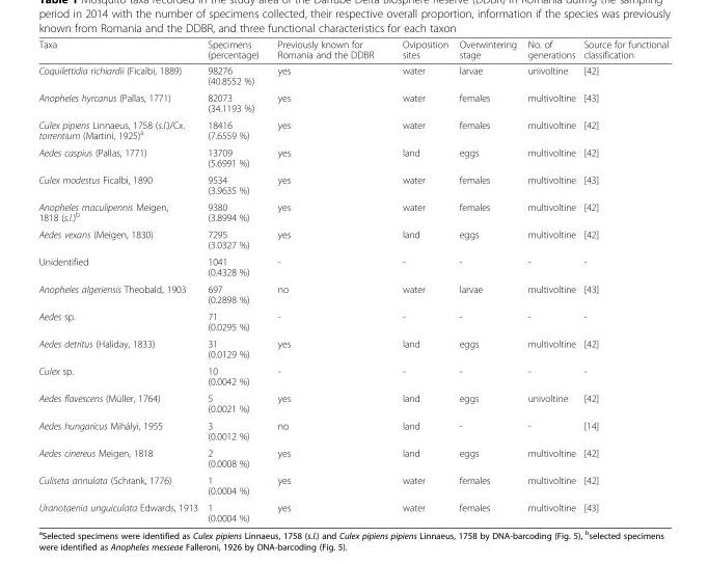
<table><thead><tr><td>Taxa</td><td>Specimens (percentage)</td><td>Previously known for Romania and the DDBR</td><td>Oviposition sites</td><td>Overwintering stage</td><td>No. of generations</td><td>Source for functional classification</td></tr></thead><tbody><tr><td>Coquilettidia richiardii (Ficalbi, 1889)</td><td>98276 (40.8552 %)</td><td>yes</td><td>water</td><td>larvae</td><td>univoltine</td><td>[42]</td></tr><tr><td>Anopheles hyrcanus (Pallas, 1771)</td><td>82073 (34.1193 %)</td><td>yes</td><td>water</td><td>females</td><td>multivoltine</td><td>[43]</td></tr><tr><td>Culex pipiens Linnaeus, 1758 (s.l.)/Cx. torrentium (Martini, 1925)<sup>a</sup></td><td>18416 (7.6559 %)</td><td>yes</td><td>water</td><td>females</td><td>multivoltine</td><td>[42]</td></tr><tr><td>Aedes caspius (Pallas, 1771)</td><td>13709 (5.6991 %)</td><td>yes</td><td>land</td><td>eggs</td><td>multivoltine</td><td>[42]</td></tr><tr><td>Culex modestus Ficalbi, 1890</td><td>9534 (3.9635 %)</td><td>yes</td><td>water</td><td>females</td><td>multivoltine</td><td>[43]</td></tr><tr><td>Anopheles maculipennis Meigen, 1818 (s.l.)<sup>b</sup></td><td>9380 (3.8994 %)</td><td>yes</td><td>water</td><td>females</td><td>multivoltine</td><td>[42]</td></tr><tr><td>Aedes vexans (Meigen, 1830)</td><td>7295 (3.0327 %)</td><td>yes</td><td>land</td><td>eggs</td><td>multivoltine</td><td>[42]</td></tr><tr><td>Unidentified</td><td>1041 (0.4328 %)</td><td>-</td><td>-</td><td>-</td><td>-</td><td>-</td></tr><tr><td>Anopheles algeriensis Theobald, 1903</td><td>697 (0.2898 %)</td><td>no</td><td>water</td><td>larvae</td><td>multivoltine</td><td>[43]</td></tr><tr><td>Aedes sp.</td><td>71 (0.0295 %)</td><td>-</td><td>-</td><td>-</td><td>-</td><td>-</td></tr><tr><td>Aedes detritus (Haliday, 1833)</td><td>31 (0.0129 %)</td><td>yes</td><td>land</td><td>eggs</td><td>multivoltine</td><td>[42]</td></tr><tr><td>Culex sp.</td><td>10 (0.0042 %)</td><td>-</td><td>-</td><td>-</td><td>-</td><td>-</td></tr><tr><td>Aedes flavescens (Müller, 1764)</td><td>5 (0.0021 %)</td><td>yes</td><td>land</td><td>eggs</td><td>univoltine</td><td>[42]</td></tr><tr><td>Aedes hungaricus Mihályi, 1955</td><td>3 (0.0012 %)</td><td>no</td><td>land</td><td>-</td><td>-</td><td>[14]</td></tr><tr><td>Aedes cinereus Meigen, 1818</td><td>2 (0.0008 %)</td><td>yes</td><td>land</td><td>eggs</td><td>multivoltine</td><td>[42]</td></tr><tr><td>Culiseta annulata (Schrank, 1776)</td><td>1 (0.0004 %)</td><td>yes</td><td>water</td><td>females</td><td>multivoltine</td><td>[42]</td></tr><tr><td>Uranotaenia unguiculata Edwards, 1913</td><td>1 (0.0004 %)</td><td>yes</td><td>water</td><td>females</td><td>multivoltine</td><td>[43]</td></tr></tbody></table>